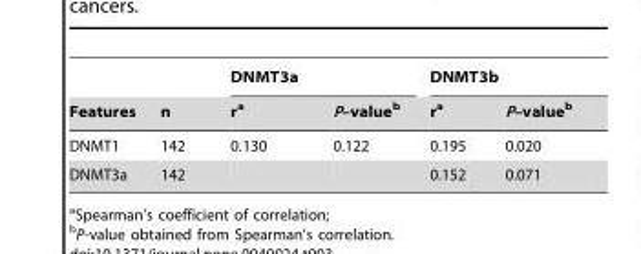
<table><thead><tr><td rowspan="2">Features</td><td rowspan="2">n</td><td colspan="2">DNMT3a</td><td colspan="2">DNMT3b</td></tr><tr><td>r<sup>a</sup></td><td>P–value<sup>b</sup></td><td>r<sup>a</sup></td><td>P–value<sup>b</sup></td></tr></thead><tbody><tr><td>DNMT1</td><td>142</td><td>0.130</td><td>0.122</td><td>0.195</td><td>0.020</td></tr><tr><td>DNMT3a</td><td>142</td><td></td><td></td><td>0.152</td><td>0.071</td></tr></tbody></table>